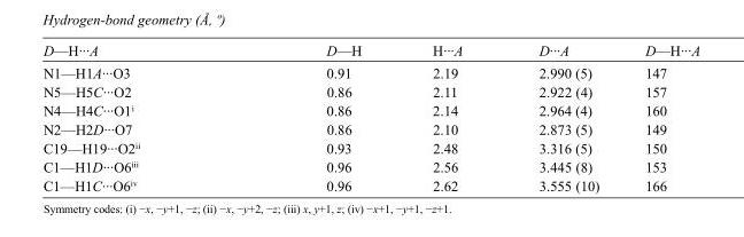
<table><tbody><tr><td>D—H···A</td><td>D—H</td><td>H···A</td><td>D···A</td><td>D—H···A</td></tr><tr><td>N1—H1A···O3</td><td>0.91</td><td>2.19</td><td>2.990 (5)</td><td>147</td></tr><tr><td>N5—H5C···O2</td><td>0.86</td><td>2.11</td><td>2.922 (4)</td><td>157</td></tr><tr><td>N4—H4C···O1<sup>i</sup></td><td>0.86</td><td>2.14</td><td>2.964 (4)</td><td>160</td></tr><tr><td>N2—H2D···O7</td><td>0.86</td><td>2.10</td><td>2.873 (5)</td><td>149</td></tr><tr><td>C19—H19···O2<sup>ii</sup></td><td>0.93</td><td>2.48</td><td>3.316 (5)</td><td>150</td></tr><tr><td>C1—H1D···O6<sup>iii</sup></td><td>0.96</td><td>2.56</td><td>3.445 (8)</td><td>153</td></tr><tr><td>C1—H1C···O6<sup>iv</sup></td><td>0.96</td><td>2.62</td><td>3.555 (10)</td><td>166</td></tr></tbody></table>